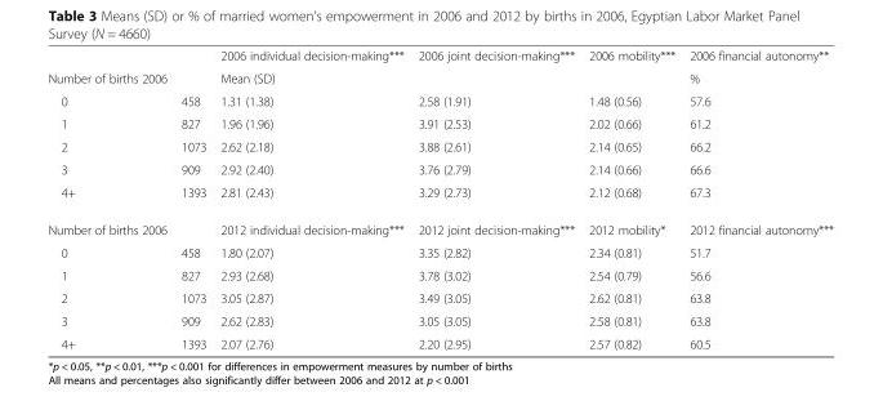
<table><thead><tr><td></td><td></td><td>2006 individual decision-making***</td><td>2006 joint decision-making***</td><td>2006 mobility***</td><td>2006 financial autonomy**</td></tr></thead><tbody><tr><td>Number of births 2006</td><td></td><td colspan="3">Mean (SD)</td><td>%</td></tr><tr><td>0</td><td>458</td><td>1.31 (1.38)</td><td>2.58 (1.91)</td><td>1.48 (0.56)</td><td>57.6</td></tr><tr><td>1</td><td>827</td><td>1.96 (1.96)</td><td>3.91 (2.53)</td><td>2.02 (0.66)</td><td>61.2</td></tr><tr><td>2</td><td>1073</td><td>2.62 (2.18)</td><td>3.88 (2.61)</td><td>2.14 (0.65)</td><td>66.2</td></tr><tr><td>3</td><td>909</td><td>2.92 (2.40)</td><td>3.76 (2.79)</td><td>2.14 (0.66)</td><td>66.6</td></tr><tr><td>4+</td><td>1393</td><td>2.81 (2.43)</td><td>3.29 (2.73)</td><td>2.12 (0.68)</td><td>67.3</td></tr><tr><td>Number of births 2006</td><td></td><td>2012 individual decision-making***</td><td>2012 joint decision-making***</td><td>2012 mobility*</td><td>2012 financial autonomy***</td></tr><tr><td>0</td><td>458</td><td>1.80 (2.07)</td><td>3.35 (2.82)</td><td>2.34 (0.81)</td><td>51.7</td></tr><tr><td>1</td><td>827</td><td>2.93 (2.68)</td><td>3.78 (3.02)</td><td>2.54 (0.79)</td><td>56.6</td></tr><tr><td>2</td><td>1073</td><td>3.05 (2.87)</td><td>3.49 (3.05)</td><td>2.62 (0.81)</td><td>63.8</td></tr><tr><td>3</td><td>909</td><td>2.62 (2.83)</td><td>3.05 (3.05)</td><td>2.58 (0.81)</td><td>63.8</td></tr><tr><td>4+</td><td>1393</td><td>2.07 (2.76)</td><td>2.20 (2.95)</td><td>2.57 (0.82)</td><td>60.5</td></tr></tbody></table>